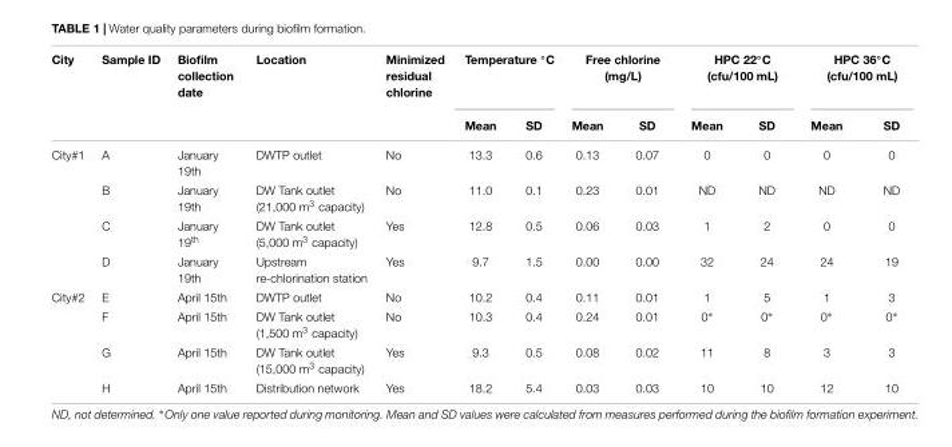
<table><thead><tr><td rowspan="2">City</td><td rowspan="2">Sample ID</td><td rowspan="2">Biofilm collection date</td><td rowspan="2">Location</td><td rowspan="2">Minimized residual chlorine</td><td colspan="2">Temperature ◦C</td><td colspan="2">Free chlorine (mg/L)</td><td colspan="2">HPC 22◦C (cfu/100 mL)</td><td colspan="2">HPC 36◦C (cfu/100 mL)</td></tr><tr><td>Mean</td><td>SD</td><td>Mean</td><td>SD</td><td>Mean</td><td>SD</td><td>Mean</td><td>SD</td></tr></thead><tbody><tr><td rowspan="4">City#1</td><td>A</td><td>January 19th</td><td>DWTP outlet</td><td>No</td><td>13.3</td><td>0.6</td><td>0.13</td><td>0.07</td><td>0</td><td>0</td><td>0</td><td>0</td></tr><tr><td>B</td><td>January 19th</td><td>DW Tank outlet (21,000 m<sup>3</sup> capacity)</td><td>No</td><td>11.0</td><td>0.1</td><td>0.23</td><td>0.01</td><td>ND</td><td>ND</td><td>ND</td><td>ND</td></tr><tr><td>C</td><td>January 19<sup>th</sup></td><td>DW Tank outlet (5,000 m<sup>3</sup> capacity)</td><td>Yes</td><td>12.8</td><td>0.5</td><td>0.06</td><td>0.03</td><td>1</td><td>2</td><td>0</td><td>0</td></tr><tr><td>D</td><td>January 19th</td><td>Upstream re-chlorination station</td><td>Yes</td><td>9.7</td><td>1.5</td><td>0.00</td><td>0.00</td><td>32</td><td>24</td><td>24</td><td>19</td></tr><tr><td rowspan="4">City#2</td><td>E</td><td>April 15th</td><td>DWTP outlet</td><td>No</td><td>10.2</td><td>0.4</td><td>0.11</td><td>0.01</td><td>1</td><td>5</td><td>1</td><td>3</td></tr><tr><td>F</td><td>April 15th</td><td>DW Tank outlet (1,500 m<sup>3</sup> capacity)</td><td>No</td><td>10.3</td><td>0.4</td><td>0.24</td><td>0.01</td><td>0∗</td><td>0∗</td><td>0∗</td><td>0∗</td></tr><tr><td>G</td><td>April 15th</td><td>DW Tank outlet (15,000 m<sup>3</sup> capacity)</td><td>Yes</td><td>9.3</td><td>0.5</td><td>0.08</td><td>0.02</td><td>11</td><td>8</td><td>3</td><td>3</td></tr><tr><td>H</td><td>April 15th</td><td>Distribution network</td><td>Yes</td><td>18.2</td><td>5.4</td><td>0.03</td><td>0.03</td><td>10</td><td>10</td><td>12</td><td>10</td></tr></tbody></table>